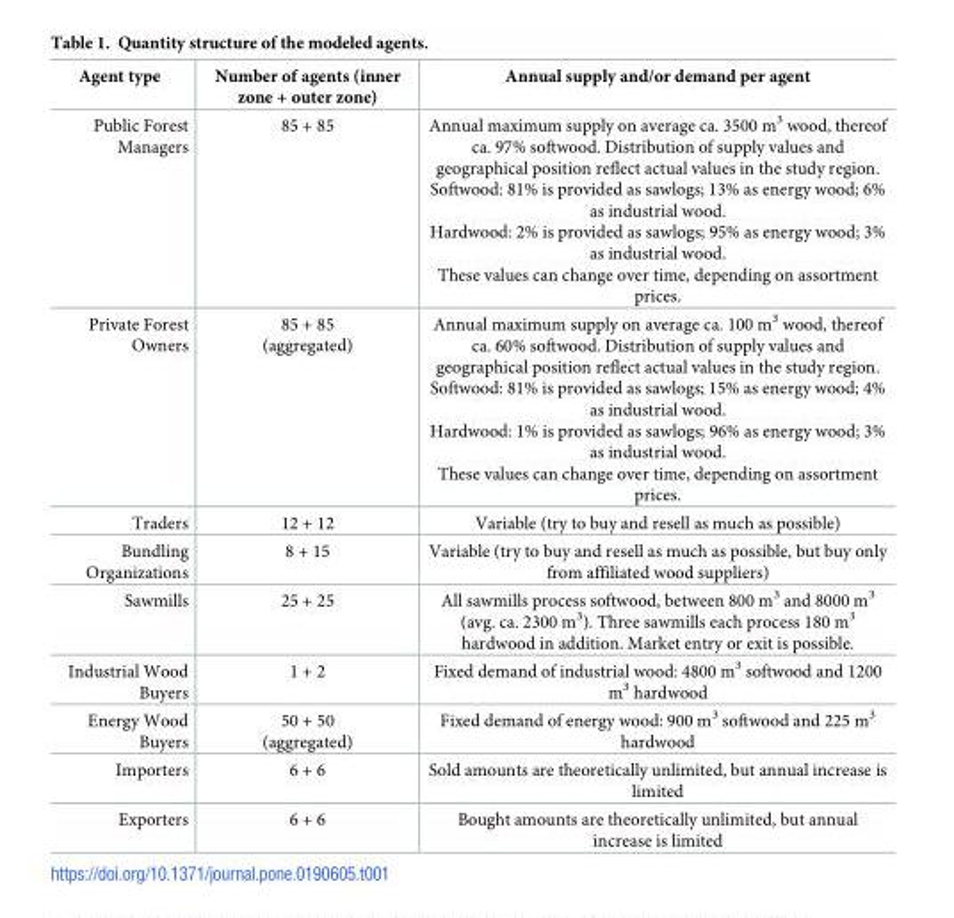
<table><thead><tr><td>Agent type</td><td>Number of agents (inner zone + outer zone)</td><td>Annual supply and/or demand per agent</td></tr></thead><tbody><tr><td>Public Forest Managers</td><td>85 + 85</td><td>Annual maximum supply on average ca. 3500 m<sup>3</sup> wood, thereof ca. 97% softwood. Distribution of supply values and geographical position reflect actual values in the study region. Softwood: 81% is provided as sawlogs; 13% as energy wood; 6% as industrial wood. Hardwood: 2% is provided as sawlogs; 95% as energy wood; 3% as industrial wood. These values can change over time, depending on assortment prices.</td></tr><tr><td>Private Forest Owners</td><td>85 + 85 (aggregated)</td><td>Annual maximum supply on average ca. 100 m<sup>3</sup> wood, thereof ca. 60% softwood. Distribution of supply values and geographical position reflect actual values in the study region. Softwood: 81% is provided as sawlogs; 15% as energy wood; 4% as industrial wood. Hardwood: 1% is provided as sawlogs; 96% as energy wood; 3% as industrial wood. These values can change over time, depending on assortment prices.</td></tr><tr><td>Traders</td><td>12 + 12</td><td>Variable (try to buy and resell as much as possible)</td></tr><tr><td>Bundling Organizations</td><td>8 + 15</td><td>Variable (try to buy and resell as much as possible, but buy only from affiliated wood suppliers)</td></tr><tr><td>Sawmills</td><td>25 + 25</td><td>All sawmills process softwood, between 800 m<sup>3</sup> and 8000 m<sup>3</sup> (avg. ca. 2300 m<sup>3</sup>). Three sawmills each process 180 m<sup>3</sup> hardwood in addition. Market entry or exit is possible.</td></tr><tr><td>Industrial Wood Buyers</td><td>1 + 2</td><td>Fixed demand of industrial wood: 4800 m<sup>3</sup> softwood and 1200 m<sup>3</sup> hardwood</td></tr><tr><td>Energy Wood Buyers</td><td>50 + 50 (aggregated)</td><td>Fixed demand of energy wood: 900 m<sup>3</sup> softwood and 225 m<sup>3</sup> hardwood</td></tr><tr><td>Importers</td><td>6 + 6</td><td>Sold amounts are theoretically unlimited, but annual increase is limited</td></tr><tr><td>Exporters</td><td>6 + 6</td><td>Bought amounts are theoretically unlimited, but annual increase is limited</td></tr></tbody></table>